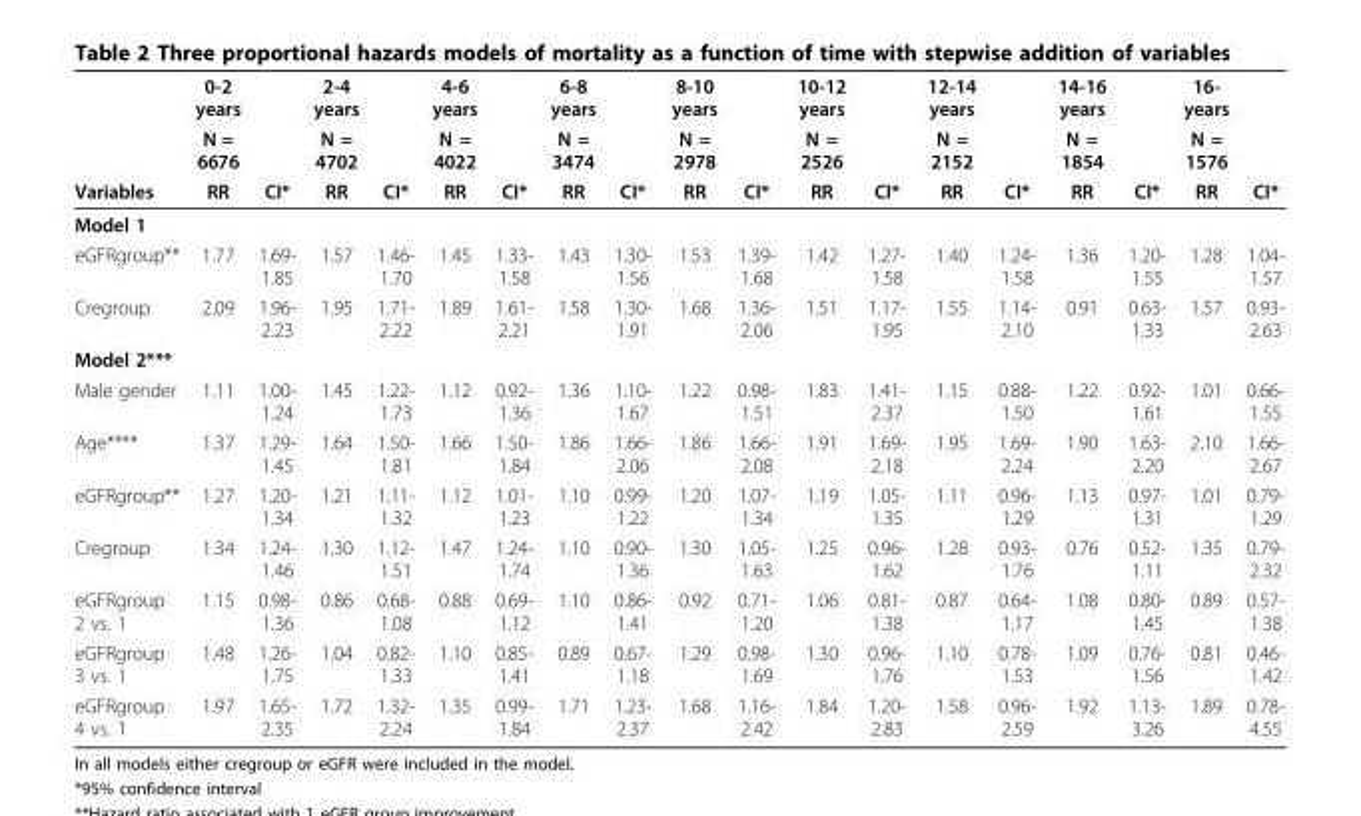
<table><thead><tr><td rowspan="3">Variables</td><td rowspan="3">0-2 years N = 6676 RR</td><td rowspan="3">CI*</td><td rowspan="3">2-4 years N = 4702 RR</td><td rowspan="3">CI*</td><td rowspan="3">4-6 years N = 4022 RR</td><td rowspan="3">CI*</td><td rowspan="3">6-8 years N = 3474 RR</td><td rowspan="3">CI*</td><td rowspan="3">8-10 years N = 2978 RR</td><td rowspan="3">CI*</td><td rowspan="3">10-12 years N = 2526 RR</td><td rowspan="3">CI*</td><td rowspan="3">12-14 years N = 2152 RR</td><td rowspan="3">CI*</td><td rowspan="3">14-16 years N = 1854 RR</td><td rowspan="3">CI*</td><td rowspan="3">16- years N = 1576 RR</td><td rowspan="3">CI*</td></tr><tr></tr><tr></tr></thead><tbody><tr><td colspan="19">Model 1</td></tr><tr><td>eGFRgroup**</td><td>1.77</td><td>1.69- 1.85</td><td>1.57</td><td>1.46- 1.70</td><td>1.45</td><td>1.33- 1.58</td><td>1.43</td><td>1.30- 1.56</td><td>1.53</td><td>1.39- 1.68</td><td>1.42</td><td>1.27- 1.58</td><td>1.40</td><td>1.24- 1.58</td><td>1.36</td><td>1.20- 1.55</td><td>1.28</td><td>1.04- 1.57</td></tr><tr><td>Cregroup</td><td>2.09</td><td>1.96- 2.23</td><td>1.95</td><td>1.71- 2.22</td><td>1.89</td><td>1.61- 2.21</td><td>1.58</td><td>1.30- 1.91</td><td>1.68</td><td>1.36- 2.06</td><td>1.51</td><td>1.17- 1.95</td><td>1.55</td><td>1.14- 2.10</td><td>0.91</td><td>0.63- 1.33</td><td>1.57</td><td>0.93- 2.63</td></tr><tr><td colspan="19">Model 2***</td></tr><tr><td>Male gender</td><td>1.11</td><td>1.00- 1.24</td><td>1.45</td><td>1.22- 1.73</td><td>1.12</td><td>0.92- 1.36</td><td>1.36</td><td>1.10- 1.67</td><td>1.22</td><td>0.98- 1.51</td><td>1.83</td><td>1.41- 2.37</td><td>1.15</td><td>0.88- 1.50</td><td>1.22</td><td>0.92- 1.61</td><td>1.01</td><td>0.66- 1.55</td></tr><tr><td>Age****</td><td>1.37</td><td>1.29- 1.45</td><td>1.64</td><td>1.50- 1.81</td><td>1.66</td><td>1.50- 1.84</td><td>1.86</td><td>1.66- 2.06</td><td>1.86</td><td>1.66- 2.08</td><td>1.91</td><td>1.69- 2.18</td><td>1.95</td><td>1.69- 2.24</td><td>1.90</td><td>1.63- 2.20</td><td>2.10</td><td>1.66- 2.67</td></tr><tr><td>eGFRgroup**</td><td>1.27</td><td>1.20- 1.34</td><td>1.21</td><td>1.11- 1.32</td><td>1.12</td><td>1.01- 1.23</td><td>1.10</td><td>0.99- 1.22</td><td>1.20</td><td>1.07- 1.34</td><td>1.19</td><td>1.05- 1.35</td><td>1.11</td><td>0.96- 1.29</td><td>1.13</td><td>0.97- 1.31</td><td>1.01</td><td>0.79- 1.29</td></tr><tr><td>Cregroup</td><td>1.34</td><td>1.24- 1.46</td><td>1.30</td><td>1.12- 1.51</td><td>1.47</td><td>1.24- 1.74</td><td>1.10</td><td>0.90- 1.36</td><td>1.30</td><td>1.05- 1.63</td><td>1.25</td><td>0.96- 1.62</td><td>1.28</td><td>0.93- 1.76</td><td>0.76</td><td>0.52- 1.11</td><td>1.35</td><td>0.79- 2.32</td></tr><tr><td>eGFRgroup 2 vs. 1</td><td>1.15</td><td>0.98- 1.36</td><td>0.86</td><td>0.68- 1.08</td><td>0.88</td><td>0.69- 1.12</td><td>1.10</td><td>0.86- 1.41</td><td>0.92</td><td>0.71- 1.20</td><td>1.06</td><td>0.81- 1.38</td><td>0.87</td><td>0.64- 1.17</td><td>1.08</td><td>0.80- 1.45</td><td>0.89</td><td>0.57- 1.38</td></tr><tr><td>eGFRgroup 3 vs. 1</td><td>1.48</td><td>1.26- 1.75</td><td>1.04</td><td>0.82- 1.33</td><td>1.10</td><td>0.85- 1.41</td><td>0.89</td><td>0.67- 1.18</td><td>1.29</td><td>0.98- 1.69</td><td>1.30</td><td>0.96- 1.76</td><td>1.10</td><td>0.78- 1.53</td><td>1.09</td><td>0.76- 1.56</td><td>0.81</td><td>0.46- 1.42</td></tr><tr><td>eGFRgroup 4 vs. 1</td><td>1.97</td><td>1.65- 2.35</td><td>1.72</td><td>1.32- 2.24</td><td>1.35</td><td>0.99- 1.84</td><td>1.71</td><td>1.23- 2.37</td><td>1.68</td><td>1.16- 2.42</td><td>1.84</td><td>1.20- 2.83</td><td>1.58</td><td>0.96- 2.59</td><td>1.92</td><td>1.13- 3.26</td><td>1.89</td><td>0.78- 4.55</td></tr></tbody></table>